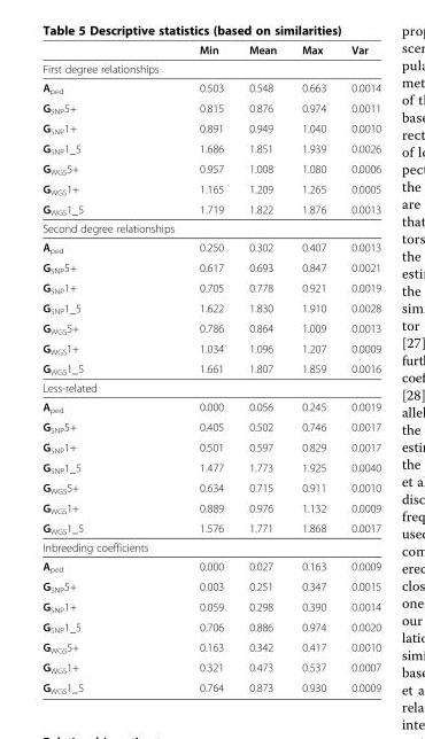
<table><thead><tr><td></td><td>Min</td><td>Mean</td><td>Max</td><td>Var</td></tr></thead><tbody><tr><td colspan="5">First degree relationships</td></tr><tr><td>A<sub>ped</sub></td><td>0.503</td><td>0.548</td><td>0.663</td><td>0.0014</td></tr><tr><td>G<sub>SNP</sub>5+</td><td>0.815</td><td>0.876</td><td>0.974</td><td>0.0011</td></tr><tr><td>G<sub>SNP</sub>1+</td><td>0.891</td><td>0.949</td><td>1.040</td><td>0.0010</td></tr><tr><td>G<sub>SNP</sub>1_5</td><td>1.686</td><td>1.851</td><td>1.939</td><td>0.0026</td></tr><tr><td>G<sub>WGS</sub>5+</td><td>0.957</td><td>1.008</td><td>1.080</td><td>0.0006</td></tr><tr><td>G<sub>WGS</sub>1+</td><td>1.165</td><td>1.209</td><td>1.265</td><td>0.0005</td></tr><tr><td>G<sub>WGS</sub>1_5</td><td>1.719</td><td>1.822</td><td>1.876</td><td>0.0013</td></tr><tr><td colspan="5">Second degree relationships</td></tr><tr><td>A<sub>ped</sub></td><td>0.250</td><td>0.302</td><td>0.407</td><td>0.0013</td></tr><tr><td>G<sub>SNP</sub>5+</td><td>0.617</td><td>0.693</td><td>0.847</td><td>0.0021</td></tr><tr><td>G<sub>SNP</sub>1+</td><td>0.705</td><td>0.778</td><td>0.921</td><td>0.0019</td></tr><tr><td>G<sub>SNP</sub>1_5</td><td>1.622</td><td>1.830</td><td>1.910</td><td>0.0028</td></tr><tr><td>G<sub>WGS</sub>5+</td><td>0.786</td><td>0.864</td><td>1.009</td><td>0.0013</td></tr><tr><td>G<sub>WGS</sub>1+</td><td>1.034</td><td>1.096</td><td>1.207</td><td>0.0009</td></tr><tr><td>G<sub>WGS</sub>1_5</td><td>1.661</td><td>1.807</td><td>1.859</td><td>0.0016</td></tr><tr><td colspan="5">Less-related</td></tr><tr><td>A<sub>ped</sub></td><td>0.000</td><td>0.056</td><td>0.245</td><td>0.0019</td></tr><tr><td>G<sub>SNP</sub>5+</td><td>0.405</td><td>0.502</td><td>0.746</td><td>0.0017</td></tr><tr><td>G<sub>SNP</sub>1+</td><td>0.501</td><td>0.597</td><td>0.829</td><td>0.0017</td></tr><tr><td>G<sub>SNP</sub>1_5</td><td>1.477</td><td>1.773</td><td>1.925</td><td>0.0040</td></tr><tr><td>G<sub>WGS</sub>5+</td><td>0.634</td><td>0.715</td><td>0.911</td><td>0.0010</td></tr><tr><td>G<sub>WGS</sub>1+</td><td>0.889</td><td>0.976</td><td>1.132</td><td>0.0009</td></tr><tr><td>G<sub>WGS</sub>1_5</td><td>1.576</td><td>1.771</td><td>1.868</td><td>0.0017</td></tr><tr><td colspan="5">Inbreeding coefficients</td></tr><tr><td>A<sub>ped</sub></td><td>0.000</td><td>0.027</td><td>0.163</td><td>0.0009</td></tr><tr><td>G<sub>SNP</sub>5+</td><td>0.003</td><td>0.251</td><td>0.347</td><td>0.0015</td></tr><tr><td>G<sub>SNP</sub>1+</td><td>0.059</td><td>0.298</td><td>0.390</td><td>0.0014</td></tr><tr><td>G<sub>SNP</sub>1_5</td><td>0.706</td><td>0.886</td><td>0.974</td><td>0.0020</td></tr><tr><td>G<sub>WGS</sub>5+</td><td>0.163</td><td>0.342</td><td>0.417</td><td>0.0010</td></tr><tr><td>G<sub>WGS</sub>1+</td><td>0.321</td><td>0.473</td><td>0.537</td><td>0.0007</td></tr><tr><td>G<sub>WGS</sub>1_5</td><td>0.764</td><td>0.873</td><td>0.930</td><td>0.0009</td></tr></tbody></table>